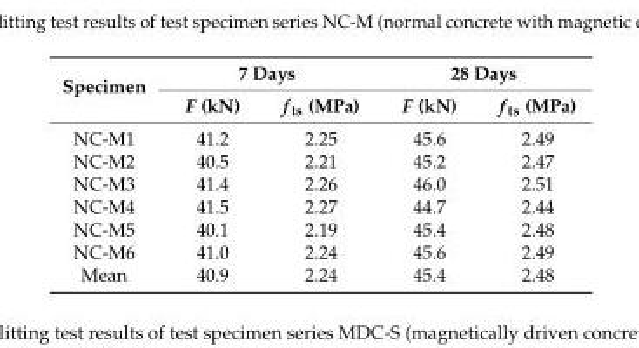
<table><thead><tr><td rowspan="2">Specimen</td><td colspan="2">7 Days</td><td colspan="2">28 Days</td></tr><tr><td>F (kN)</td><td>f<sub>ts</sub> (MPa)</td><td>F (kN)</td><td>f<sub>ts</sub> (MPa)</td></tr></thead><tbody><tr><td>NC-M1</td><td>41.2</td><td>2.25</td><td>45.6</td><td>2.49</td></tr><tr><td>NC-M2</td><td>40.5</td><td>2.21</td><td>45.2</td><td>2.47</td></tr><tr><td>NC-M3</td><td>41.4</td><td>2.26</td><td>46.0</td><td>2.51</td></tr><tr><td>NC-M4</td><td>41.5</td><td>2.27</td><td>44.7</td><td>2.44</td></tr><tr><td>NC-M5</td><td>40.1</td><td>2.19</td><td>45.4</td><td>2.48</td></tr><tr><td>NC-M6</td><td>41.0</td><td>2.24</td><td>45.6</td><td>2.49</td></tr><tr><td>Mean</td><td>40.9</td><td>2.24</td><td>45.4</td><td>2.48</td></tr></tbody></table>